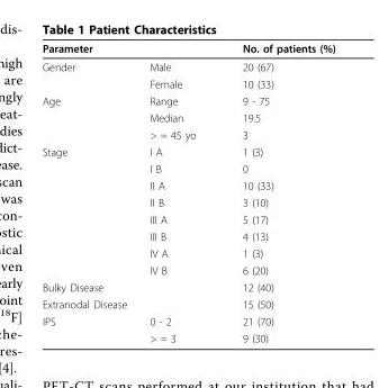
<table><thead><tr><td>Parameter</td><td></td><td>No. of patients (%)</td></tr></thead><tbody><tr><td rowspan="2">Gender</td><td>Male</td><td>20 (67)</td></tr><tr><td>Female</td><td>10 (33)</td></tr><tr><td rowspan="3">Age</td><td>Range</td><td>9 - 75</td></tr><tr><td>Median</td><td>19.5</td></tr><tr><td>&gt; = 45 yo</td><td>3</td></tr><tr><td rowspan="8">Stage</td><td>I A</td><td>1 (3)</td></tr><tr><td>I B</td><td>0</td></tr><tr><td>II A</td><td>10 (33)</td></tr><tr><td>II B</td><td>3 (10)</td></tr><tr><td>III A</td><td>5 (17)</td></tr><tr><td>III B</td><td>4 (13)</td></tr><tr><td>IV A</td><td>1 (3)</td></tr><tr><td>IV B</td><td>6 (20)</td></tr><tr><td>Bulky Disease</td><td></td><td>12 (40)</td></tr><tr><td colspan="2">Extranodal Disease</td><td>15 (50)</td></tr><tr><td rowspan="2">IPS</td><td>0 - 2</td><td>21 (70)</td></tr><tr><td>&gt; = 3</td><td>9 (30)</td></tr></tbody></table>